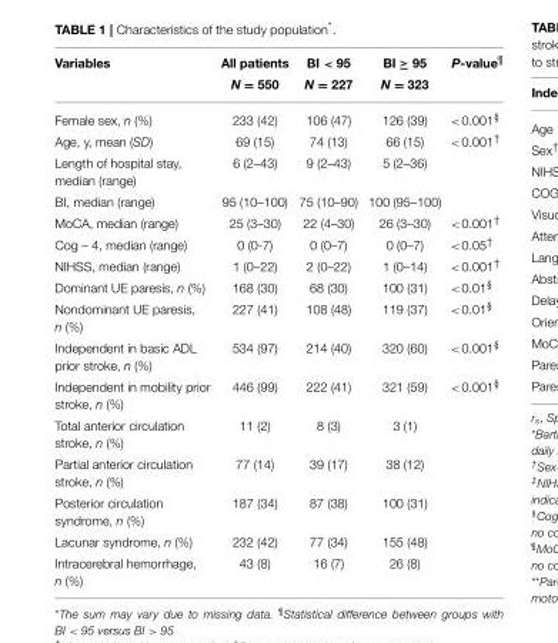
<table><thead><tr><td rowspan="2">Variables</td><td rowspan="2">All patients N = 550</td><td rowspan="2">BI &lt; 95 N = 227</td><td rowspan="2">BI ≥ 95 N = 323</td><td rowspan="2">P-value<sup>¶</sup></td></tr><tr></tr></thead><tbody><tr><td>Female sex, n (%)</td><td>233 (42)</td><td>106 (47)</td><td>126 (39)</td><td>&lt;0.001<sup>§</sup></td></tr><tr><td>Age, y, mean (SD)</td><td>69 (15)</td><td>74 (13)</td><td>66 (15)</td><td>&lt;0.001<sup>†</sup></td></tr><tr><td>Length of hospital stay, median (range)</td><td>6 (2–43)</td><td>9 (2–43)</td><td>5 (2–36)</td><td></td></tr><tr><td>BI, median (range)</td><td>95 (10–100)</td><td>75 (10–90)</td><td>100 (95–100)</td><td></td></tr><tr><td>MoCA, median (range)</td><td>25 (3–30)</td><td>22 (4–30)</td><td>26 (3–30)</td><td>&lt;0.001<sup>†</sup></td></tr><tr><td>Cog – 4, median (range)</td><td>0 (0-7)</td><td>0 (0–7)</td><td>0 (0–7)</td><td>&lt;0.05<sup>†</sup></td></tr><tr><td>NIHSS, median (range)</td><td>1 (0–22)</td><td>2 (0–22)</td><td>1 (0–14)</td><td>&lt;0.001<sup>†</sup></td></tr><tr><td>Dominant UE paresis, n (%)</td><td>168 (30)</td><td>68 (30)</td><td>100 (31)</td><td>&lt;0.01<sup>§</sup></td></tr><tr><td>Nondominant UE paresis, n (%)</td><td>227 (41)</td><td>108 (48)</td><td>119 (37)</td><td>&lt;0.01<sup>§</sup></td></tr><tr><td>Independent in basic ADL prior stroke, n (%)</td><td>534 (97)</td><td>214 (40)</td><td>320 (60)</td><td>&lt;0.001<sup>§</sup></td></tr><tr><td>Independent in mobility prior stroke, n (%)</td><td>446 (99)</td><td>222 (41)</td><td>321 (59)</td><td>&lt;0.001<sup>§</sup></td></tr><tr><td>Total anterior circulation stroke, n (%)</td><td>11 (2)</td><td>8 (3)</td><td>3 (1)</td><td></td></tr><tr><td>Partial anterior circulation stroke, n (%)</td><td>77 (14)</td><td>39 (17)</td><td>38 (12)</td><td></td></tr><tr><td>Posterior circulation syndrome, n (%)</td><td>187 (34)</td><td>87 (38)</td><td>100 (31)</td><td></td></tr><tr><td>Lacunar syndrome, n (%)</td><td>232 (42)</td><td>77 (34)</td><td>155 (48)</td><td></td></tr><tr><td>Intracerebral hemorrhage, n (%)</td><td>43 (8)</td><td>16 (7)</td><td>26 (8)</td><td></td></tr></tbody></table>